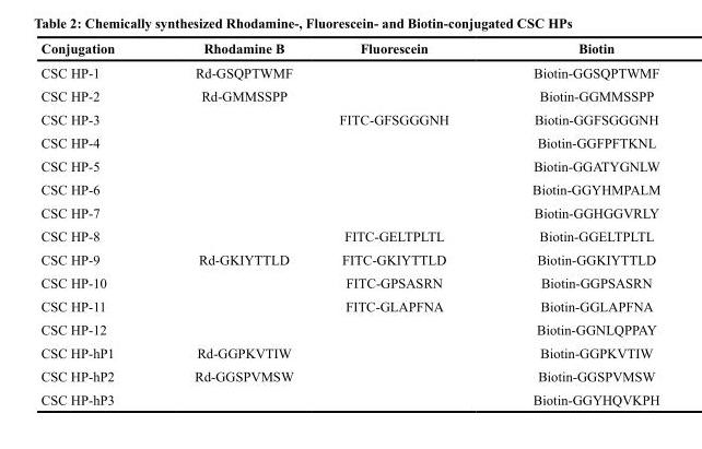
<table><thead><tr><td>Conjugation</td><td>Rhodamine B</td><td>Fluorescein</td><td>Biotin</td></tr></thead><tbody><tr><td>CSC HP-1</td><td>Rd-GSQPTWMF</td><td></td><td>Biotin-GGSQPTWMF</td></tr><tr><td>CSC HP-2</td><td>Rd-GMMSSPP</td><td></td><td>Biotin-GGMMSSPP</td></tr><tr><td>CSC HP-3</td><td></td><td>FITC-GFSGGGNH</td><td>Biotin-GGFSGGGNH</td></tr><tr><td>CSC HP-4</td><td></td><td></td><td>Biotin-GGFPFTKNL</td></tr><tr><td>CSC HP-5</td><td></td><td></td><td>Biotin-GGATYGNLW</td></tr><tr><td>CSC HP-6</td><td></td><td></td><td>Biotin-GGYHMPALM</td></tr><tr><td>CSC HP-7</td><td></td><td></td><td>Biotin-GGHGGVRLY</td></tr><tr><td>CSC HP-8</td><td></td><td>FITC-GELTPLTL</td><td>Biotin-GGELTPLTL</td></tr><tr><td>CSC HP-9</td><td>Rd-GKIYTTLD</td><td>FITC-GKIYTTLD</td><td>Biotin-GGKIYTTLD</td></tr><tr><td>CSC HP-10</td><td></td><td>FITC-GPSASRN</td><td>Biotin-GGPSASRN</td></tr><tr><td>CSC HP-11</td><td></td><td>FITC-GLAPFNA</td><td>Biotin-GGLAPFNA</td></tr><tr><td>CSC HP-12</td><td></td><td></td><td>Biotin-GGNLQPPAY</td></tr><tr><td>CSC HP-hP1</td><td>Rd-GGPKVTIW</td><td></td><td>Biotin-GGPKVTIW</td></tr><tr><td>CSC HP-hP2</td><td>Rd-GGSPVMSW</td><td></td><td>Biotin-GGSPVMSW</td></tr><tr><td>CSC HP-hP3</td><td></td><td></td><td>Biotin-GGYHQVKPH</td></tr></tbody></table>